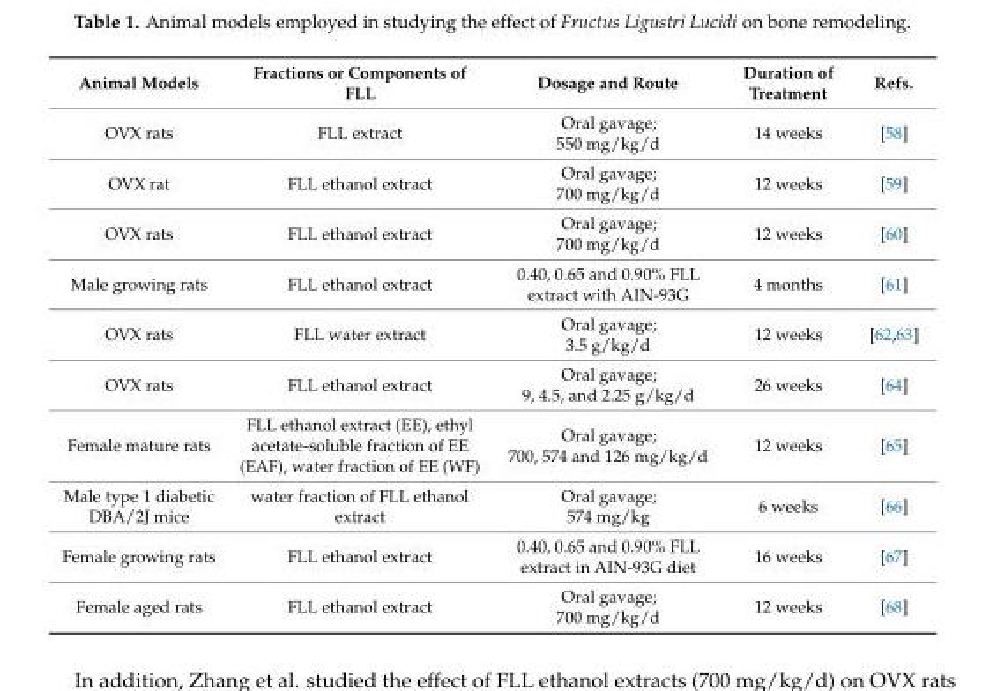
<table><thead><tr><td>Animal Models</td><td>Fractions or Components of FLL</td><td>Dosage and Route</td><td>Duration of Treatment</td><td>Refs.</td></tr></thead><tbody><tr><td>OVX rats</td><td>FLL extract</td><td>Oral gavage; 550 mg/kg/d</td><td>14 weeks</td><td>[58]</td></tr><tr><td>OVX rat</td><td>FLL ethanol extract</td><td>Oral gavage; 700 mg/kg/d</td><td>12 weeks</td><td>[59]</td></tr><tr><td>OVX rats</td><td>FLL ethanol extract</td><td>Oral gavage; 700 mg/kg/d</td><td>12 weeks</td><td>[60]</td></tr><tr><td>Male growing rats</td><td>FLL ethanol extract</td><td>0.40, 0.65 and 0.90% FLL extract with AIN-93G</td><td>4 months</td><td>[61]</td></tr><tr><td>OVX rats</td><td>FLL water extract</td><td>Oral gavage; 3.5 g/kg/d</td><td>12 weeks</td><td>[62,63]</td></tr><tr><td>OVX rats</td><td>FLL ethanol extract</td><td>Oral gavage; 9, 4.5, and 2.25 g/kg/d</td><td>26 weeks</td><td>[64]</td></tr><tr><td>Female mature rats</td><td>FLL ethanol extract (EE), ethyl acetate-soluble fraction of EE (EAF), water fraction of EE (WF)</td><td>Oral gavage; 700, 574 and 126 mg/kg/d</td><td>12 weeks</td><td>[65]</td></tr><tr><td>Male type 1 diabetic DBA/2J mice</td><td>water fraction of FLL ethanol extract</td><td>Oral gavage; 574 mg/kg</td><td>6 weeks</td><td>[66]</td></tr><tr><td>Female growing rats</td><td>FLL ethanol extract</td><td>0.40, 0.65 and 0.90% FLL extract in AIN-93G diet</td><td>16 weeks</td><td>[67]</td></tr><tr><td>Female aged rats</td><td>FLL ethanol extract</td><td>Oral gavage; 700 mg/kg/d</td><td>12 weeks</td><td>[68]</td></tr></tbody></table>